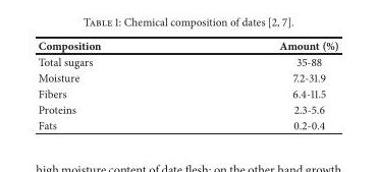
<table><thead><tr><td>Composition</td><td>Amount (%)</td></tr></thead><tbody><tr><td>Total sugars</td><td>35-88</td></tr><tr><td>Moisture</td><td>7.2-31.9</td></tr><tr><td>Fibers</td><td>6.4-11.5</td></tr><tr><td>Proteins</td><td>2.3-5.6</td></tr><tr><td>Fats</td><td>0.2-0.4</td></tr></tbody></table>